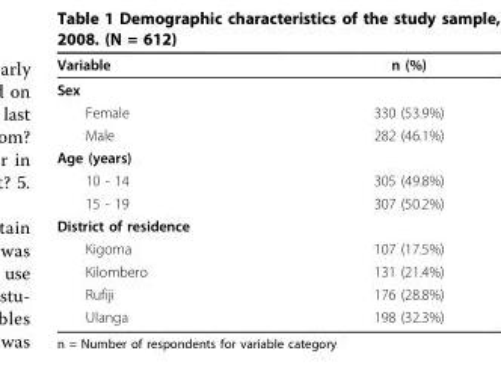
<table><thead><tr><td>Variable</td><td>n (%)</td></tr></thead><tbody><tr><td colspan="2">Sex</td></tr><tr><td>Female</td><td>330 (53.9%)</td></tr><tr><td>Male</td><td>282 (46.1%)</td></tr><tr><td colspan="2">Age (years)</td></tr><tr><td>10 - 14</td><td>305 (49.8%)</td></tr><tr><td>15 - 19</td><td>307 (50.2%)</td></tr><tr><td colspan="2">District of residence</td></tr><tr><td>Kigoma</td><td>107 (17.5%)</td></tr><tr><td>Kilombero</td><td>131 (21.4%)</td></tr><tr><td>Rufiji</td><td>176 (28.8%)</td></tr><tr><td>Ulanga</td><td>198 (32.3%)</td></tr></tbody></table>